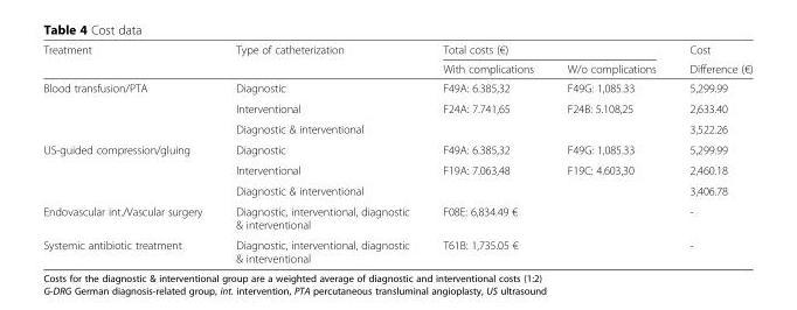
<table><thead><tr><td rowspan="2">Treatment</td><td rowspan="2">Type of catheterization</td><td colspan="2">Total costs (€)</td><td rowspan="2">Cost Difference (€)</td></tr><tr><td>With complications</td><td>W/o complications</td></tr></thead><tbody><tr><td rowspan="3">Blood transfusion/PTA</td><td>Diagnostic</td><td>F49A: 6.385,32</td><td>F49G: 1,085.33</td><td>5,299.99</td></tr><tr><td>Interventional</td><td>F24A: 7.741,65</td><td>F24B: 5.108,25</td><td>2,633.40</td></tr><tr><td>Diagnostic &amp; interventional</td><td colspan="2"></td><td>3,522.26</td></tr><tr><td rowspan="3">US-guided compression/gluing</td><td>Diagnostic</td><td>F49A: 6.385,32</td><td>F49G: 1,085.33</td><td>5,299.99</td></tr><tr><td>Interventional</td><td>F19A: 7.063,48</td><td>F19C: 4.603,30</td><td>2,460.18</td></tr><tr><td>Diagnostic &amp; interventional</td><td colspan="2"></td><td>3,406.78</td></tr><tr><td>Endovascular int./Vascular surgery</td><td>Diagnostic, interventional, diagnostic &amp; interventional</td><td colspan="2">F08E: 6,834.49 €</td><td>-</td></tr><tr><td>Systemic antibiotic treatment</td><td>Diagnostic, interventional, diagnostic &amp; interventional</td><td colspan="2">T61B: 1,735.05 €</td><td>-</td></tr></tbody></table>